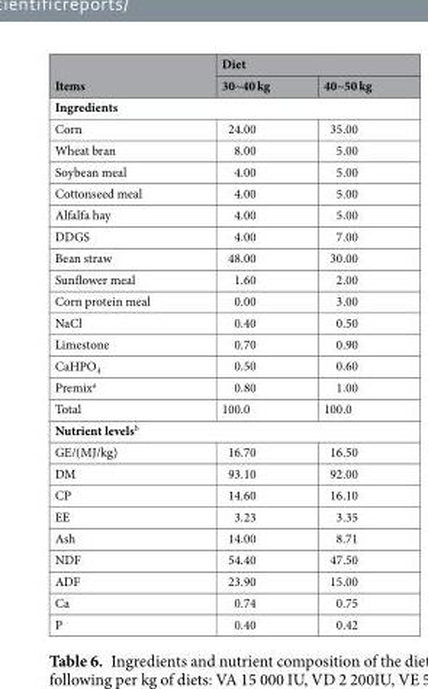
<table><thead><tr><td rowspan="2">Items</td><td colspan="2">Diet</td></tr><tr><td>30~40 kg</td><td>40~50 kg</td></tr></thead><tbody><tr><td colspan="3">Ingredients</td></tr><tr><td>Corn</td><td>24.00</td><td>35.00</td></tr><tr><td>Wheat bran</td><td>8.00</td><td>5.00</td></tr><tr><td>Soybean meal</td><td>4.00</td><td>5.00</td></tr><tr><td>Cottonseed meal</td><td>4.00</td><td>5.00</td></tr><tr><td>Alfalfa hay</td><td>4.00</td><td>5.00</td></tr><tr><td>DDGS</td><td>4.00</td><td>7.00</td></tr><tr><td>Bean straw</td><td>48.00</td><td>30.00</td></tr><tr><td>Sunflower meal</td><td>1.60</td><td>2.00</td></tr><tr><td>Corn protein meal</td><td>0.00</td><td>3.00</td></tr><tr><td>NaCl</td><td>0.40</td><td>0.50</td></tr><tr><td>Limestone</td><td>0.70</td><td>0.90</td></tr><tr><td>CaHPO<sub>4</sub></td><td>0.50</td><td>0.60</td></tr><tr><td>Premix<sup>a</sup></td><td>0.80</td><td>1.00</td></tr><tr><td>Total</td><td>100.0</td><td>100.0</td></tr><tr><td colspan="3">Nutrient levels<sup>b</sup></td></tr><tr><td>GE/(MJ/kg)</td><td>16.70</td><td>16.50</td></tr><tr><td>DM</td><td>93.10</td><td>92.00</td></tr><tr><td>CP</td><td>14.60</td><td>16.10</td></tr><tr><td>EE</td><td>3.23</td><td>3.35</td></tr><tr><td>Ash</td><td>14.00</td><td>8.71</td></tr><tr><td>NDF</td><td>54.40</td><td>47.50</td></tr><tr><td>ADF</td><td>23.90</td><td>15.00</td></tr><tr><td>Ca</td><td>0.74</td><td>0.75</td></tr><tr><td>P</td><td>0.40</td><td>0.42</td></tr></tbody></table>